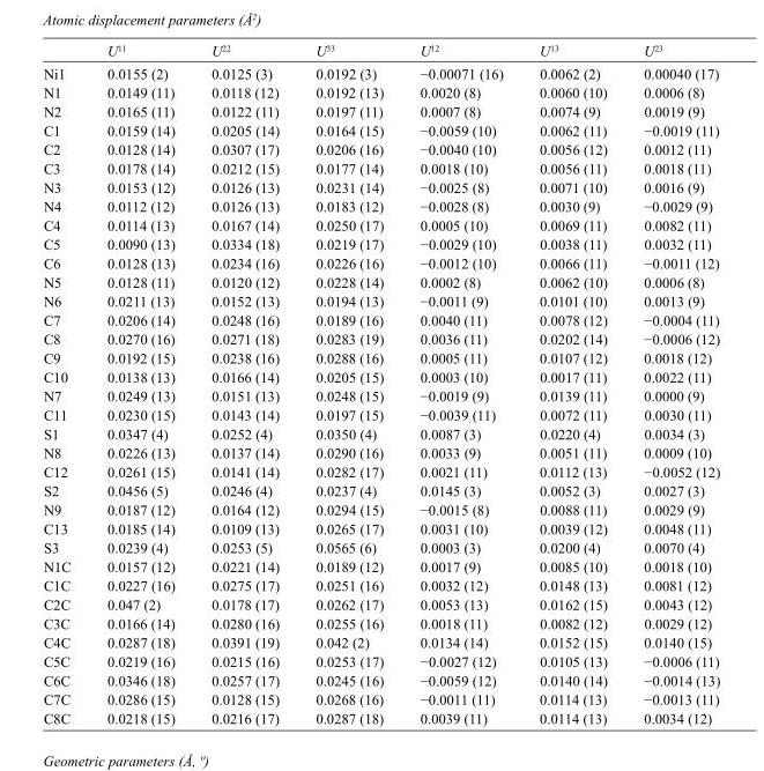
<table><thead><tr><td></td><td>U<sup>11</sup></td><td>U<sup>22</sup></td><td>U<sup>33</sup></td><td>U<sup>12</sup></td><td>U<sup>13</sup></td><td>U<sup>23</sup></td></tr></thead><tbody><tr><td>Ni1</td><td>0.0155 (2)</td><td>0.0125 (3)</td><td>0.0192 (3)</td><td>−0.00071 (16)</td><td>0.0062 (2)</td><td>0.00040 (17)</td></tr><tr><td>N1</td><td>0.0149 (11)</td><td>0.0118 (12)</td><td>0.0192 (13)</td><td>0.0020 (8)</td><td>0.0060 (10)</td><td>0.0006 (8)</td></tr><tr><td>N2</td><td>0.0165 (11)</td><td>0.0122 (11)</td><td>0.0197 (11)</td><td>0.0007 (8)</td><td>0.0074 (9)</td><td>0.0019 (9)</td></tr><tr><td>C1</td><td>0.0159 (14)</td><td>0.0205 (14)</td><td>0.0164 (15)</td><td>−0.0059 (10)</td><td>0.0062 (11)</td><td>−0.0019 (11)</td></tr><tr><td>C2</td><td>0.0128 (14)</td><td>0.0307 (17)</td><td>0.0206 (16)</td><td>−0.0040 (10)</td><td>0.0056 (12)</td><td>0.0012 (11)</td></tr><tr><td>C3</td><td>0.0178 (14)</td><td>0.0212 (15)</td><td>0.0177 (14)</td><td>0.0018 (10)</td><td>0.0056 (11)</td><td>0.0018 (11)</td></tr><tr><td>N3</td><td>0.0153 (12)</td><td>0.0126 (13)</td><td>0.0231 (14)</td><td>−0.0025 (8)</td><td>0.0071 (10)</td><td>0.0016 (9)</td></tr><tr><td>N4</td><td>0.0112 (12)</td><td>0.0126 (13)</td><td>0.0183 (12)</td><td>−0.0028 (8)</td><td>0.0030 (9)</td><td>−0.0029 (9)</td></tr><tr><td>C4</td><td>0.0114 (13)</td><td>0.0167 (14)</td><td>0.0250 (17)</td><td>0.0005 (10)</td><td>0.0069 (11)</td><td>0.0082 (11)</td></tr><tr><td>C5</td><td>0.0090 (13)</td><td>0.0334 (18)</td><td>0.0219 (17)</td><td>−0.0029 (10)</td><td>0.0038 (11)</td><td>0.0032 (11)</td></tr><tr><td>C6</td><td>0.0128 (13)</td><td>0.0234 (16)</td><td>0.0226 (16)</td><td>−0.0012 (10)</td><td>0.0066 (11)</td><td>−0.0011 (12)</td></tr><tr><td>N5</td><td>0.0128 (11)</td><td>0.0120 (12)</td><td>0.0228 (14)</td><td>0.0002 (8)</td><td>0.0062 (10)</td><td>0.0006 (8)</td></tr><tr><td>N6</td><td>0.0211 (13)</td><td>0.0152 (13)</td><td>0.0194 (13)</td><td>−0.0011 (9)</td><td>0.0101 (10)</td><td>0.0013 (9)</td></tr><tr><td>C7</td><td>0.0206 (14)</td><td>0.0248 (16)</td><td>0.0189 (16)</td><td>0.0040 (11)</td><td>0.0078 (12)</td><td>−0.0004 (11)</td></tr><tr><td>C8</td><td>0.0270 (16)</td><td>0.0271 (18)</td><td>0.0283 (19)</td><td>0.0036 (11)</td><td>0.0202 (14)</td><td>−0.0006 (12)</td></tr><tr><td>C9</td><td>0.0192 (15)</td><td>0.0238 (16)</td><td>0.0288 (16)</td><td>0.0005 (11)</td><td>0.0107 (12)</td><td>0.0018 (12)</td></tr><tr><td>C10</td><td>0.0138 (13)</td><td>0.0166 (14)</td><td>0.0205 (15)</td><td>0.0003 (10)</td><td>0.0017 (11)</td><td>0.0022 (11)</td></tr><tr><td>N7</td><td>0.0249 (13)</td><td>0.0151 (13)</td><td>0.0248 (15)</td><td>−0.0019 (9)</td><td>0.0139 (11)</td><td>0.0000 (9)</td></tr><tr><td>C11</td><td>0.0230 (15)</td><td>0.0143 (14)</td><td>0.0197 (15)</td><td>−0.0039 (11)</td><td>0.0072 (11)</td><td>0.0030 (11)</td></tr><tr><td>S1</td><td>0.0347 (4)</td><td>0.0252 (4)</td><td>0.0350 (4)</td><td>0.0087 (3)</td><td>0.0220 (4)</td><td>0.0034 (3)</td></tr><tr><td>N8</td><td>0.0226 (13)</td><td>0.0137 (14)</td><td>0.0290 (16)</td><td>0.0033 (9)</td><td>0.0051 (11)</td><td>0.0009 (10)</td></tr><tr><td>C12</td><td>0.0261 (15)</td><td>0.0141 (14)</td><td>0.0282 (17)</td><td>0.0021 (11)</td><td>0.0112 (13)</td><td>−0.0052 (12)</td></tr><tr><td>S2</td><td>0.0456 (5)</td><td>0.0246 (4)</td><td>0.0237 (4)</td><td>0.0145 (3)</td><td>0.0052 (3)</td><td>0.0027 (3)</td></tr><tr><td>N9</td><td>0.0187 (12)</td><td>0.0164 (12)</td><td>0.0294 (15)</td><td>−0.0015 (8)</td><td>0.0088 (11)</td><td>0.0029 (9)</td></tr><tr><td>C13</td><td>0.0185 (14)</td><td>0.0109 (13)</td><td>0.0265 (17)</td><td>0.0031 (10)</td><td>0.0039 (12)</td><td>0.0048 (11)</td></tr><tr><td>S3</td><td>0.0239 (4)</td><td>0.0253 (5)</td><td>0.0565 (6)</td><td>0.0003 (3)</td><td>0.0200 (4)</td><td>0.0070 (4)</td></tr><tr><td>N1C</td><td>0.0157 (12)</td><td>0.0221 (14)</td><td>0.0189 (12)</td><td>0.0017 (9)</td><td>0.0085 (10)</td><td>0.0018 (10)</td></tr><tr><td>C1C</td><td>0.0227 (16)</td><td>0.0275 (17)</td><td>0.0251 (16)</td><td>0.0032 (12)</td><td>0.0148 (13)</td><td>0.0081 (12)</td></tr><tr><td>C2C</td><td>0.047 (2)</td><td>0.0178 (17)</td><td>0.0262 (17)</td><td>0.0053 (13)</td><td>0.0162 (15)</td><td>0.0043 (12)</td></tr><tr><td>C3C</td><td>0.0166 (14)</td><td>0.0280 (16)</td><td>0.0255 (16)</td><td>0.0018 (11)</td><td>0.0082 (12)</td><td>0.0029 (12)</td></tr><tr><td>C4C</td><td>0.0287 (18)</td><td>0.0391 (19)</td><td>0.042 (2)</td><td>0.0134 (14)</td><td>0.0152 (15)</td><td>0.0140 (15)</td></tr><tr><td>C5C</td><td>0.0219 (16)</td><td>0.0215 (16)</td><td>0.0253 (17)</td><td>−0.0027 (12)</td><td>0.0105 (13)</td><td>−0.0006 (11)</td></tr><tr><td>C6C</td><td>0.0346 (18)</td><td>0.0257 (17)</td><td>0.0245 (16)</td><td>−0.0059 (12)</td><td>0.0140 (14)</td><td>−0.0014 (13)</td></tr><tr><td>C7C</td><td>0.0286 (15)</td><td>0.0128 (15)</td><td>0.0268 (16)</td><td>−0.0011 (11)</td><td>0.0114 (13)</td><td>−0.0013 (11)</td></tr><tr><td>C8C</td><td>0.0218 (15)</td><td>0.0216 (17)</td><td>0.0287 (18)</td><td>0.0039 (11)</td><td>0.0114 (13)</td><td>0.0034 (12)</td></tr></tbody></table>